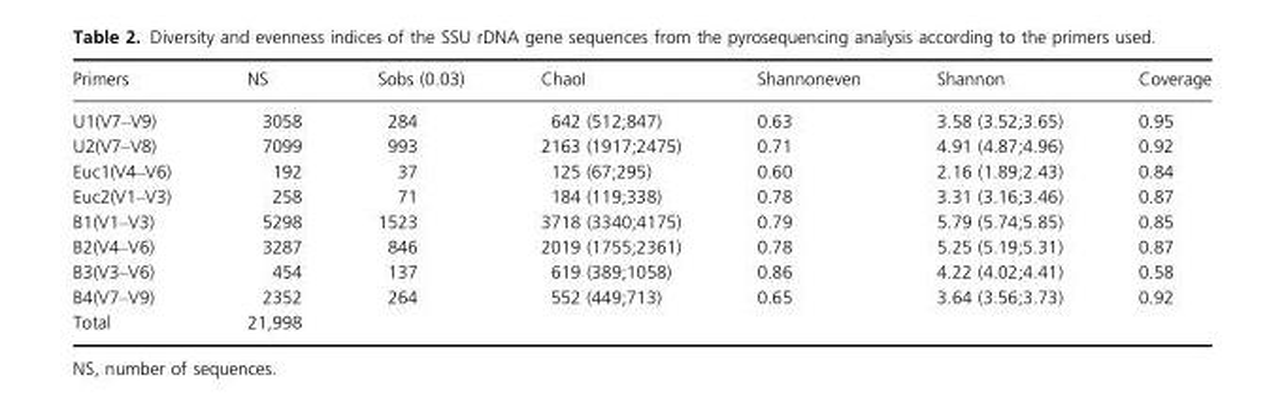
<table><thead><tr><td>Primers</td><td>NS</td><td>Sobs (0.03)</td><td>ChaoI</td><td>Shannoneven</td><td>Shannon</td><td>Coverage</td></tr></thead><tbody><tr><td>U1(V7–V9)</td><td>3058</td><td>284</td><td>642 (512;847)</td><td>0.63</td><td>3.58 (3.52;3.65)</td><td>0.95</td></tr><tr><td>U2(V7–V8)</td><td>7099</td><td>993</td><td>2163 (1917;2475)</td><td>0.71</td><td>4.91 (4.87;4.96)</td><td>0.92</td></tr><tr><td>Euc1(V4–V6)</td><td>192</td><td>37</td><td>125 (67;295)</td><td>0.60</td><td>2.16 (1.89;2.43)</td><td>0.84</td></tr><tr><td>Euc2(V1–V3)</td><td>258</td><td>71</td><td>184 (119;338)</td><td>0.78</td><td>3.31 (3.16;3.46)</td><td>0.87</td></tr><tr><td>B1(V1–V3)</td><td>5298</td><td>1523</td><td>3718 (3340;4175)</td><td>0.79</td><td>5.79 (5.74;5.85)</td><td>0.85</td></tr><tr><td>B2(V4–V6)</td><td>3287</td><td>846</td><td>2019 (1755;2361)</td><td>0.78</td><td>5.25 (5.19;5.31)</td><td>0.87</td></tr><tr><td>B3(V3–V6)</td><td>454</td><td>137</td><td>619 (389;1058)</td><td>0.86</td><td>4.22 (4.02;4.41)</td><td>0.58</td></tr><tr><td>B4(V7–V9)</td><td>2352</td><td>264</td><td>552 (449;713)</td><td>0.65</td><td>3.64 (3.56;3.73)</td><td>0.92</td></tr><tr><td>Total</td><td>21,998</td><td></td><td></td><td></td><td></td><td></td></tr></tbody></table>